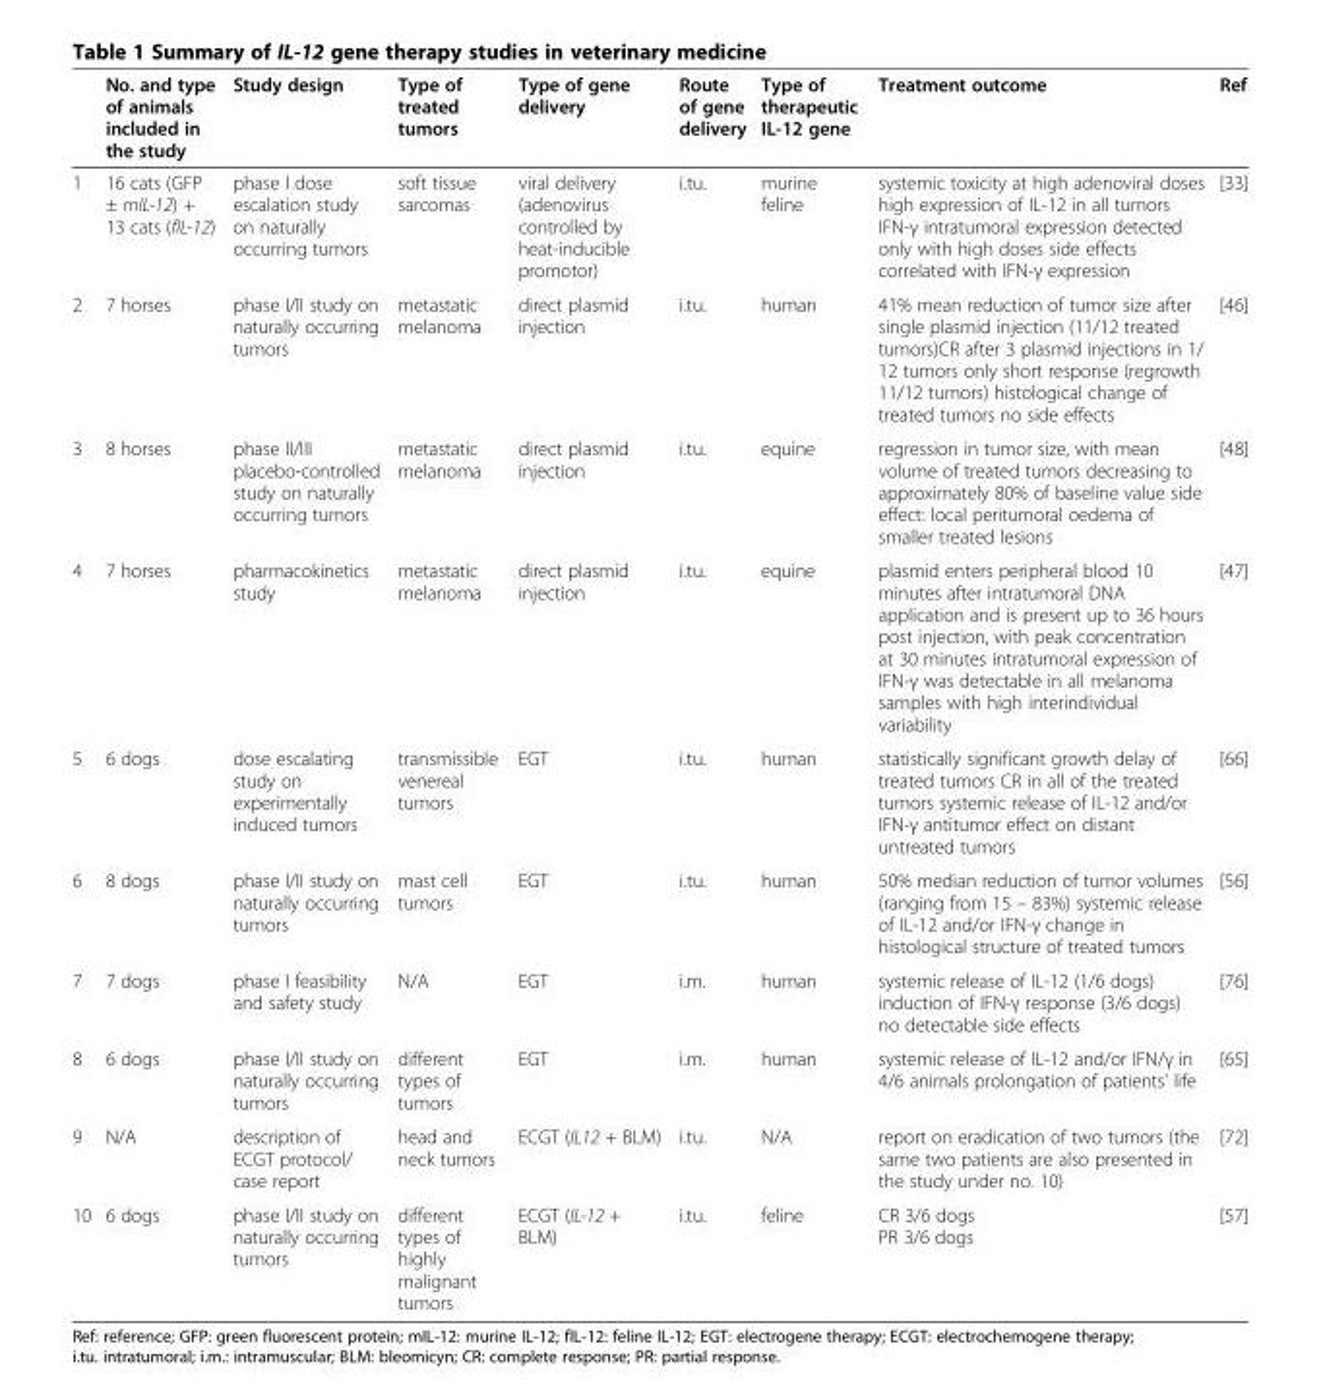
<table><thead><tr><td></td><td>No. and type of animals included in the study</td><td>Study design</td><td>Type of treated tumors</td><td>Type of gene delivery</td><td>Route of gene delivery</td><td>Type of therapeutic IL-12 gene</td><td>Treatment outcome</td><td>Ref</td></tr></thead><tbody><tr><td>1</td><td>16 cats (GFP ± mIL-12) + 13 cats (fIL-12)</td><td>phase I dose escalation study on naturally occurring tumors</td><td>soft tissue sarcomas</td><td>viral delivery (adenovirus controlled by heat-inducible promotor)</td><td>i.tu.</td><td>murine feline</td><td>systemic toxicity at high adenoviral doses high expression of IL-12 in all tumors IFN-γ intratumoral expression detected only with high doses side effects correlated with IFN-γ expression</td><td>[33]</td></tr><tr><td>2</td><td>7 horses</td><td>phase I/II study on naturally occurring tumors</td><td>metastatic melanoma</td><td>direct plasmid injection</td><td>i.tu.</td><td>human</td><td>41% mean reduction of tumor size after single plasmid injection (11/12 treated tumors)CR after 3 plasmid injections in 1/ 12 tumors only short response (regrowth 11/12 tumors) histological change of treated tumors no side effects</td><td>[46]</td></tr><tr><td>3</td><td>8 horses</td><td>phase II/III placebo-controlled study on naturally occurring tumors</td><td>metastatic melanoma</td><td>direct plasmid injection</td><td>i.tu.</td><td>equine</td><td>regression in tumor size, with mean volume of treated tumors decreasing to approximately 80% of baseline value side effect: local peritumoral oedema of smaller treated lesions</td><td>[48]</td></tr><tr><td>4</td><td>7 horses</td><td>pharmacokinetics study</td><td>metastatic melanoma</td><td>direct plasmid injection</td><td>i.tu.</td><td>equine</td><td>plasmid enters peripheral blood 10 minutes after intratumoral DNA application and is present up to 36 hours post injection, with peak concentration at 30 minutes intratumoral expression of IFN-γ was detectable in all melanoma samples with high interindividual variability</td><td>[47]</td></tr><tr><td>5</td><td>6 dogs</td><td>dose escalating study on experimentally induced tumors</td><td>transmissible venereal tumors</td><td>EGT</td><td>i.tu.</td><td>human</td><td>statistically significant growth delay of treated tumors CR in all of the treated tumors systemic release of IL-12 and/or IFN-γ antitumor effect on distant untreated tumors</td><td>[66]</td></tr><tr><td>6</td><td>8 dogs</td><td>phase I/II study on naturally occurring tumors</td><td>mast cell tumors</td><td>EGT</td><td>i.tu.</td><td>human</td><td>50% median reduction of tumor volumes (ranging from 15 – 83%) systemic release of IL-12 and/or IFN-γ change in histological structure of treated tumors</td><td>[56]</td></tr><tr><td>7</td><td>7 dogs</td><td>phase I feasibility and safety study</td><td>N/A</td><td>EGT</td><td>i.m.</td><td>human</td><td>systemic release of IL-12 (1/6 dogs) induction of IFN-γ response (3/6 dogs) no detectable side effects</td><td>[76]</td></tr><tr><td>8</td><td>6 dogs</td><td>phase I/II study on naturally occurring tumors</td><td>different types of tumors</td><td>EGT</td><td>i.m.</td><td>human</td><td>systemic release of IL-12 and/or IFN/γ in 4/6 animals prolongation of patients&#x27; life</td><td>[65]</td></tr><tr><td>9</td><td>N/A</td><td>description of ECGT protocol/ case report</td><td>head and neck tumors</td><td>ECGT (IL12 + BLM)</td><td>i.tu.</td><td>N/A</td><td>report on eradication of two tumors (the same two patients are also presented in the study under no. 10)</td><td>[72]</td></tr><tr><td>10</td><td>6 dogs</td><td>phase I/II study on naturally occurring tumors</td><td>different types of highly malignant tumors</td><td>ECGT (IL-12 + BLM)</td><td>i.tu.</td><td>feline</td><td>CR 3/6 dogs PR 3/6 dogs</td><td>[57]</td></tr></tbody></table>